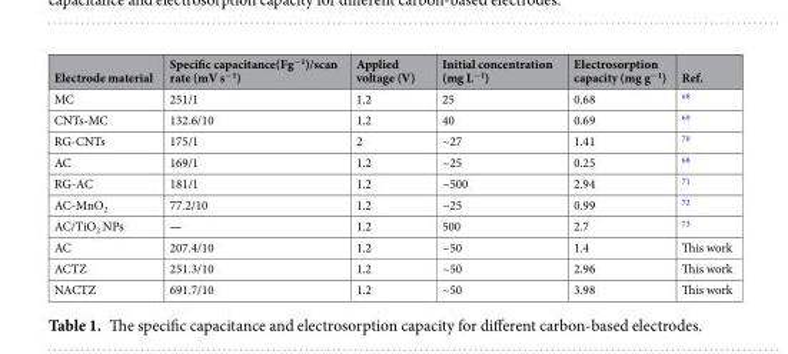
<table><thead><tr><td>Electrode material</td><td>Specific capacitance(Fg<sup>−1</sup>)/scan rate (mV s<sup>−1</sup>)</td><td>Applied voltage (V)</td><td>Initial concentration (mg L<sup>−1</sup>)</td><td>Electrosorption capacity (mg g<sup>−1</sup>)</td><td>Ref.</td></tr></thead><tbody><tr><td>MC</td><td>251/1</td><td>1.2</td><td>25</td><td>0.68</td><td><sup>68</sup></td></tr><tr><td>CNTs-MC</td><td>132.6/10</td><td>1.2</td><td>40</td><td>0.69</td><td><sup>69</sup></td></tr><tr><td>RG-CNTs</td><td>175/1</td><td>2</td><td>~27</td><td>1.41</td><td><sup>70</sup></td></tr><tr><td>AC</td><td>169/1</td><td>1.2</td><td>~25</td><td>0.25</td><td><sup>68</sup></td></tr><tr><td>RG-AC</td><td>181/1</td><td>1.2</td><td>~500</td><td>2.94</td><td><sup>71</sup></td></tr><tr><td>AC-MnO<sub>2</sub></td><td>77.2/10</td><td>1.2</td><td>~25</td><td>0.99</td><td><sup>72</sup></td></tr><tr><td>AC/TiO<sub>2</sub> NPs</td><td>—</td><td>1.2</td><td>500</td><td>2.7</td><td><sup>73</sup></td></tr><tr><td>AC</td><td>207.4/10</td><td>1.2</td><td>~50</td><td>1.4</td><td>This work</td></tr><tr><td>ACTZ</td><td>251.3/10</td><td>1.2</td><td>~50</td><td>2.96</td><td>This work</td></tr><tr><td>NACTZ</td><td>691.7/10</td><td>1.2</td><td>~50</td><td>3.98</td><td>This work</td></tr></tbody></table>